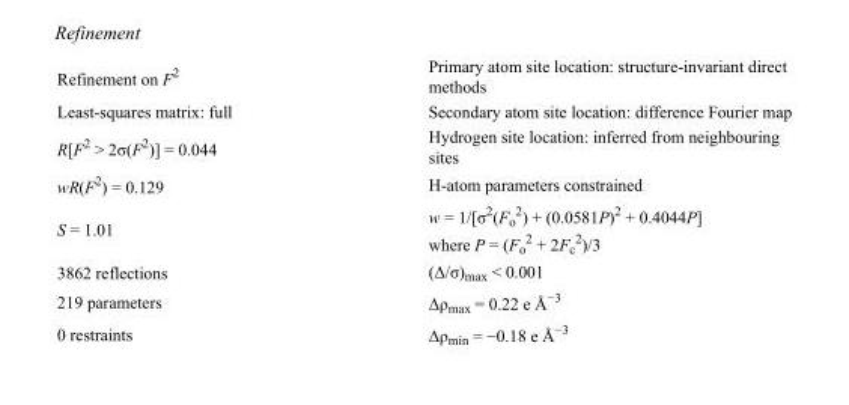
<table><tbody><tr><td>Refinement on F<sup>2</sup></td><td>Primary atom site location: structure-invariant direct methods</td></tr><tr><td>Least-squares matrix: full</td><td>Secondary atom site location: difference Fourier map</td></tr><tr><td>R[F<sup>2</sup> &gt; 2σ(F<sup>2</sup>)] = 0.044</td><td>Hydrogen site location: inferred from neighbouring sites</td></tr><tr><td>wR(F<sup>2</sup>) = 0.129</td><td>H-atom parameters constrained</td></tr><tr><td>S = 1.01</td><td>w = 1/[σ<sup>2</sup>(F<sub>o</sub> <sup>2</sup>) + (0.0581P)<sup>2</sup> + 0.4044P] where P = (F<sub>o</sub> <sup>2</sup> + 2F<sub>c</sub> <sup>2</sup>)/3</td></tr><tr><td>3862 reflections</td><td>(Δ/σ)<sub>max</sub> &lt; 0.001</td></tr><tr><td>219 parameters</td><td>Δρ<sub>max</sub> = 0.22 e Å<sup>−3</sup></td></tr><tr><td>0 restraints</td><td>Δρ<sub>min</sub> = −0.18 e Å<sup>−3</sup></td></tr></tbody></table>